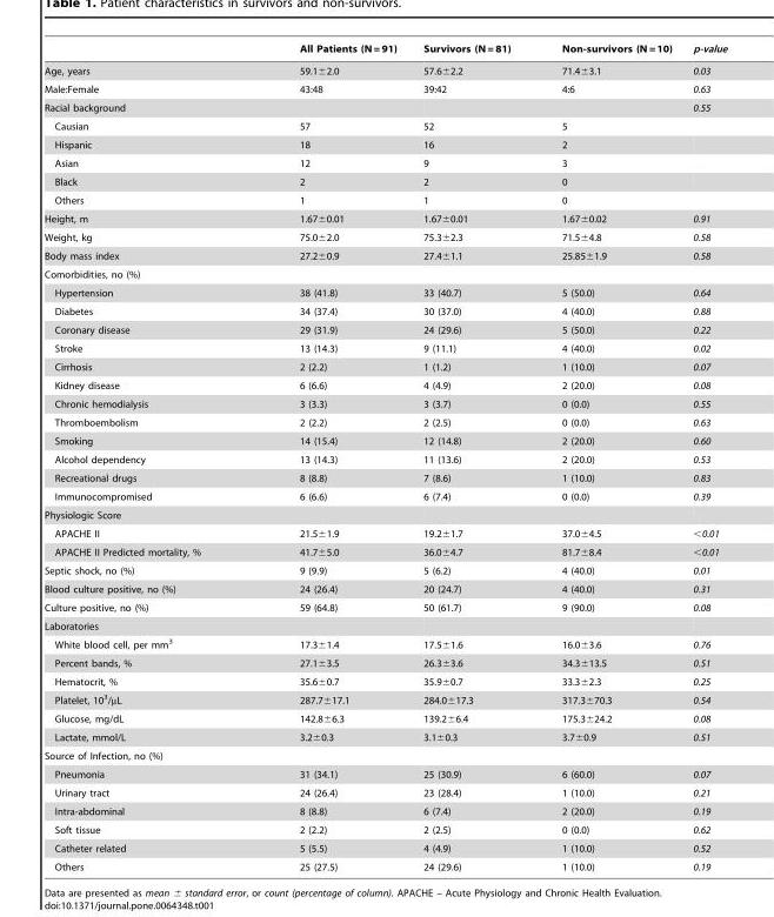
<table><thead><tr><td></td><td>All Patients (N = 91)</td><td>Survivors (N = 81)</td><td>Non-survivors (N = 10)</td><td>p-value</td></tr></thead><tbody><tr><td>Age, years</td><td>59.1±2.0</td><td>57.6±2.2</td><td>71.4±3.1</td><td>0.03</td></tr><tr><td>Male:Female</td><td>43:48</td><td>39:42</td><td>4:6</td><td>0.63</td></tr><tr><td>Racial background</td><td></td><td></td><td></td><td>0.55</td></tr><tr><td>Causian</td><td>57</td><td>52</td><td>5</td><td></td></tr><tr><td>Hispanic</td><td>18</td><td>16</td><td>2</td><td></td></tr><tr><td>Asian</td><td>12</td><td>9</td><td>3</td><td></td></tr><tr><td>Black</td><td>2</td><td>2</td><td>0</td><td></td></tr><tr><td>Others</td><td>1</td><td>1</td><td>0</td><td></td></tr><tr><td>Height, m</td><td>1.67±0.01</td><td>1.67±0.01</td><td>1.67±0.02</td><td>0.91</td></tr><tr><td>Weight, kg</td><td>75.0±2.0</td><td>75.3±2.3</td><td>71.5±4.8</td><td>0.58</td></tr><tr><td>Body mass index</td><td>27.2±0.9</td><td>27.4±1.1</td><td>25.85±1.9</td><td>0.58</td></tr><tr><td colspan="5">Comorbidities, no (%)</td></tr><tr><td>Hypertension</td><td>38 (41.8)</td><td>33 (40.7)</td><td>5 (50.0)</td><td>0.64</td></tr><tr><td>Diabetes</td><td>34 (37.4)</td><td>30 (37.0)</td><td>4 (40.0)</td><td>0.88</td></tr><tr><td>Coronary disease</td><td>29 (31.9)</td><td>24 (29.6)</td><td>5 (50.0)</td><td>0.22</td></tr><tr><td>Stroke</td><td>13 (14.3)</td><td>9 (11.1)</td><td>4 (40.0)</td><td>0.02</td></tr><tr><td>Cirrhosis</td><td>2 (2.2)</td><td>1 (1.2)</td><td>1 (10.0)</td><td>0.07</td></tr><tr><td>Kidney disease</td><td>6 (6.6)</td><td>4 (4.9)</td><td>2 (20.0)</td><td>0.08</td></tr><tr><td>Chronic hemodialysis</td><td>3 (3.3)</td><td>3 (3.7)</td><td>0 (0.0)</td><td>0.55</td></tr><tr><td>Thromboembolism</td><td>2 (2.2)</td><td>2 (2.5)</td><td>0 (0.0)</td><td>0.63</td></tr><tr><td>Smoking</td><td>14 (15.4)</td><td>12 (14.8)</td><td>2 (20.0)</td><td>0.60</td></tr><tr><td>Alcohol dependency</td><td>13 (14.3)</td><td>11 (13.6)</td><td>2 (20.0)</td><td>0.53</td></tr><tr><td>Recreational drugs</td><td>8 (8.8)</td><td>7 (8.6)</td><td>1 (10.0)</td><td>0.83</td></tr><tr><td>Immunocompromised</td><td>6 (6.6)</td><td>6 (7.4)</td><td>0 (0.0)</td><td>0.39</td></tr><tr><td colspan="5">Physiologic Score</td></tr><tr><td>APACHE II</td><td>21.5±1.9</td><td>19.2±1.7</td><td>37.0±4.5</td><td>&lt;0.01</td></tr><tr><td>APACHE II Predicted mortality, %</td><td>41.7±5.0</td><td>36.0±4.7</td><td>81.7±8.4</td><td>&lt;0.01</td></tr><tr><td>Septic shock, no (%)</td><td>9 (9.9)</td><td>5 (6.2)</td><td>4 (40.0)</td><td>0.01</td></tr><tr><td>Blood culture positive, no (%)</td><td>24 (26.4)</td><td>20 (24.7)</td><td>4 (40.0)</td><td>0.31</td></tr><tr><td>Culture positive, no (%)</td><td>59 (64.8)</td><td>50 (61.7)</td><td>9 (90.0)</td><td>0.08</td></tr><tr><td colspan="5">Laboratories</td></tr><tr><td>White blood cell, per mm<sup>3</sup></td><td>17.3±1.4</td><td>17.5±1.6</td><td>16.0±3.6</td><td>0.76</td></tr><tr><td>Percent bands, %</td><td>27.1±3.5</td><td>26.3±3.6</td><td>34.3±13.5</td><td>0.51</td></tr><tr><td>Hematocrit, %</td><td>35.6±0.7</td><td>35.9±0.7</td><td>33.3±2.3</td><td>0.25</td></tr><tr><td>Platelet, 10<sup>3</sup>/µL</td><td>287.7±17.1</td><td>284.0±17.3</td><td>317.3±70.3</td><td>0.54</td></tr><tr><td>Glucose, mg/dL</td><td>142.8±6.3</td><td>139.2±6.4</td><td>175.3±24.2</td><td>0.08</td></tr><tr><td>Lactate, mmol/L</td><td>3.2±0.3</td><td>3.1±0.3</td><td>3.7±0.9</td><td>0.51</td></tr><tr><td colspan="5">Source of Infection, no (%)</td></tr><tr><td>Pneumonia</td><td>31 (34.1)</td><td>25 (30.9)</td><td>6 (60.0)</td><td>0.07</td></tr><tr><td>Urinary tract</td><td>24 (26.4)</td><td>23 (28.4)</td><td>1 (10.0)</td><td>0.21</td></tr><tr><td>Intra-abdominal</td><td>8 (8.8)</td><td>6 (7.4)</td><td>2 (20.0)</td><td>0.19</td></tr><tr><td>Soft tissue</td><td>2 (2.2)</td><td>2 (2.5)</td><td>0 (0.0)</td><td>0.62</td></tr><tr><td>Catheter related</td><td>5 (5.5)</td><td>4 (4.9)</td><td>1 (10.0)</td><td>0.52</td></tr><tr><td>Others</td><td>25 (27.5)</td><td>24 (29.6)</td><td>1 (10.0)</td><td>0.19</td></tr></tbody></table>